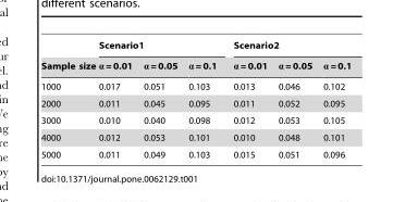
<table><thead><tr><td rowspan="2">Sample size</td><td colspan="3">Scenario1</td><td colspan="3">Scenario2</td></tr><tr><td>α = 0.01</td><td>α = 0.05</td><td>α = 0.1</td><td>α = 0.01</td><td>α = 0.05</td><td>α = 0.1</td></tr></thead><tbody><tr><td>1000</td><td>0.017</td><td>0.051</td><td>0.103</td><td>0.013</td><td>0.046</td><td>0.102</td></tr><tr><td>2000</td><td>0.011</td><td>0.045</td><td>0.095</td><td>0.011</td><td>0.052</td><td>0.095</td></tr><tr><td>3000</td><td>0.010</td><td>0.040</td><td>0.098</td><td>0.012</td><td>0.053</td><td>0.105</td></tr><tr><td>4000</td><td>0.012</td><td>0.053</td><td>0.101</td><td>0.010</td><td>0.048</td><td>0.101</td></tr><tr><td>5000</td><td>0.011</td><td>0.049</td><td>0.103</td><td>0.015</td><td>0.051</td><td>0.096</td></tr></tbody></table>